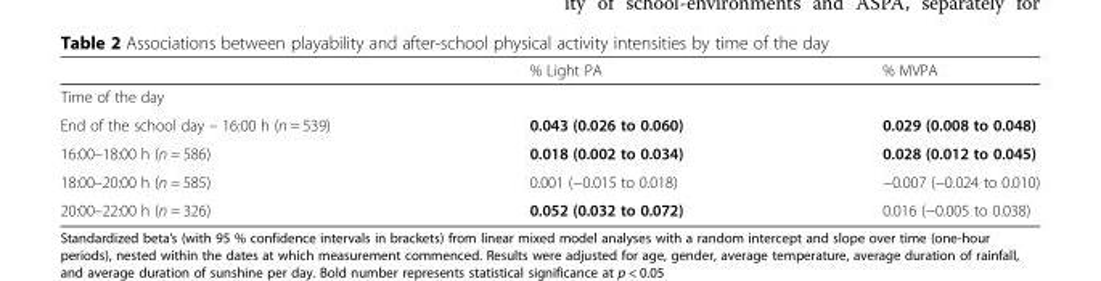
<table><thead><tr><td></td><td>% Light PA</td><td>% MVPA</td></tr></thead><tbody><tr><td colspan="3">Time of the day</td></tr><tr><td>End of the school day – 16:00 h (n = 539)</td><td>0.043 (0.026 to 0.060)</td><td>0.029 (0.008 to 0.048)</td></tr><tr><td>16:00–18:00 h (n = 586)</td><td>0.018 (0.002 to 0.034)</td><td>0.028 (0.012 to 0.045)</td></tr><tr><td>18:00–20:00 h (n = 585)</td><td>0.001 (−0.015 to 0.018)</td><td>−0.007 (−0.024 to 0.010)</td></tr><tr><td>20:00–22:00 h (n = 326)</td><td>0.052 (0.032 to 0.072)</td><td>0.016 (−0.005 to 0.038)</td></tr></tbody></table>